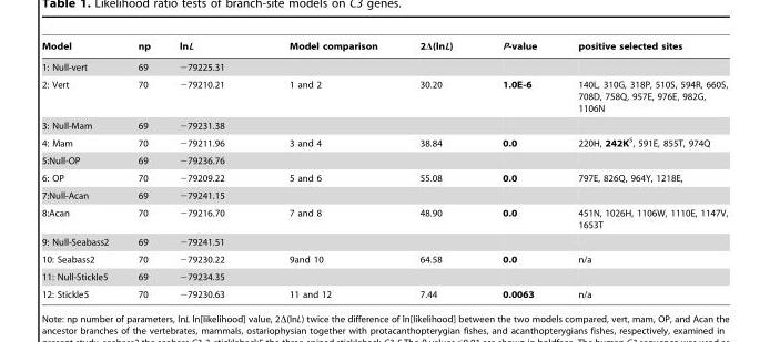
<table><thead><tr><td>Model</td><td>np</td><td>lnL</td><td>Model comparison</td><td>2Δ(lnL)</td><td>P-value</td><td>positive selected sites</td></tr></thead><tbody><tr><td>1: Null-vert</td><td>69</td><td>−79225.31</td><td></td><td></td><td></td><td></td></tr><tr><td>2: Vert</td><td>70</td><td>−79210.21</td><td>1 and 2</td><td>30.20</td><td>1.0E-6</td><td>140L, 310G, 318P, 510S, 594R, 660S, 708D, 758Q, 957E, 976E, 982G, 1106N</td></tr><tr><td>3: Null-Mam</td><td>69</td><td>−79231.38</td><td></td><td></td><td></td><td></td></tr><tr><td>4: Mam</td><td>70</td><td>−79211.96</td><td>3 and 4</td><td>38.84</td><td>0.0</td><td>220H, 242K<sup>5</sup>, 591E, 855T, 974Q</td></tr><tr><td>5:Null-OP</td><td>69</td><td>−79236.76</td><td></td><td></td><td></td><td></td></tr><tr><td>6: OP</td><td>70</td><td>−79209.22</td><td>5 and 6</td><td>55.08</td><td>0.0</td><td>797E, 826Q, 964Y, 1218E,</td></tr><tr><td>7:Null-Acan</td><td>69</td><td>−79241.15</td><td></td><td></td><td></td><td></td></tr><tr><td>8:Acan</td><td>70</td><td>−79216.70</td><td>7 and 8</td><td>48.90</td><td>0.0</td><td>451N, 1026H, 1106W, 1110E, 1147V, 1653T</td></tr><tr><td>9: Null-Seabass2</td><td>69</td><td>−79241.51</td><td></td><td></td><td></td><td></td></tr><tr><td>10: Seabass2</td><td>70</td><td>−79230.22</td><td>9and 10</td><td>64.58</td><td>0.0</td><td>n/a</td></tr><tr><td>11: Null-Stickle5</td><td>69</td><td>−79234.35</td><td></td><td></td><td></td><td></td></tr><tr><td>12: Stickle5</td><td>70</td><td>−79230.63</td><td>11 and 12</td><td>7.44</td><td>0.0063</td><td>n/a</td></tr></tbody></table>